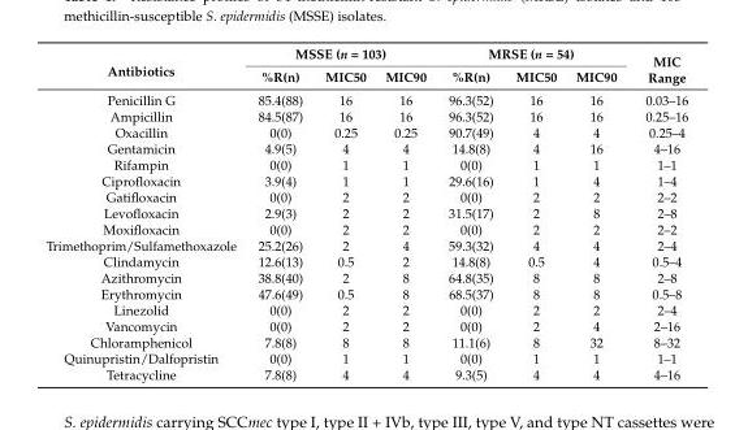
<table><thead><tr><td rowspan="2">Antibiotics</td><td colspan="3">MSSE (n = 103)</td><td colspan="3">MRSE (n = 54)</td><td rowspan="2">MIC Range</td></tr><tr><td>%R(n)</td><td>MIC50</td><td>MIC90</td><td>%R(n)</td><td>MIC50</td><td>MIC90</td></tr></thead><tbody><tr><td>Penicillin G</td><td>85.4(88)</td><td>16</td><td>16</td><td>96.3(52)</td><td>16</td><td>16</td><td>0.03–16</td></tr><tr><td>Ampicillin</td><td>84.5(87)</td><td>16</td><td>16</td><td>96.3(52)</td><td>16</td><td>16</td><td>0.25–16</td></tr><tr><td>Oxacillin</td><td>0(0)</td><td>0.25</td><td>0.25</td><td>90.7(49)</td><td>4</td><td>4</td><td>0.25–4</td></tr><tr><td>Gentamicin</td><td>4.9(5)</td><td>4</td><td>4</td><td>14.8(8)</td><td>4</td><td>16</td><td>4–16</td></tr><tr><td>Rifampin</td><td>0(0)</td><td>1</td><td>1</td><td>0(0)</td><td>1</td><td>1</td><td>1–1</td></tr><tr><td>Ciprofloxacin</td><td>3.9(4)</td><td>1</td><td>1</td><td>29.6(16)</td><td>1</td><td>4</td><td>1–4</td></tr><tr><td>Gatifloxacin</td><td>0(0)</td><td>2</td><td>2</td><td>0(0)</td><td>2</td><td>2</td><td>2–2</td></tr><tr><td>Levofloxacin</td><td>2.9(3)</td><td>2</td><td>2</td><td>31.5(17)</td><td>2</td><td>8</td><td>2–8</td></tr><tr><td>Moxifloxacin</td><td>0(0)</td><td>2</td><td>2</td><td>0(0)</td><td>2</td><td>2</td><td>2–2</td></tr><tr><td>Trimethoprim/Sulfamethoxazole</td><td>25.2(26)</td><td>2</td><td>4</td><td>59.3(32)</td><td>4</td><td>4</td><td>2–4</td></tr><tr><td>Clindamycin</td><td>12.6(13)</td><td>0.5</td><td>2</td><td>14.8(8)</td><td>0.5</td><td>4</td><td>0.5–4</td></tr><tr><td>Azithromycin</td><td>38.8(40)</td><td>2</td><td>8</td><td>64.8(35)</td><td>8</td><td>8</td><td>2–8</td></tr><tr><td>Erythromycin</td><td>47.6(49)</td><td>0.5</td><td>8</td><td>68.5(37)</td><td>8</td><td>8</td><td>0.5–8</td></tr><tr><td>Linezolid</td><td>0(0)</td><td>2</td><td>2</td><td>0(0)</td><td>2</td><td>2</td><td>2–4</td></tr><tr><td>Vancomycin</td><td>0(0)</td><td>2</td><td>2</td><td>0(0)</td><td>2</td><td>4</td><td>2–16</td></tr><tr><td>Chloramphenicol</td><td>7.8(8)</td><td>8</td><td>8</td><td>11.1(6)</td><td>8</td><td>32</td><td>8–32</td></tr><tr><td>Quinupristin/Dalfopristin</td><td>0(0)</td><td>1</td><td>1</td><td>0(0)</td><td>1</td><td>1</td><td>1–1</td></tr><tr><td>Tetracycline</td><td>7.8(8)</td><td>4</td><td>4</td><td>9.3(5)</td><td>4</td><td>4</td><td>4–16</td></tr></tbody></table>